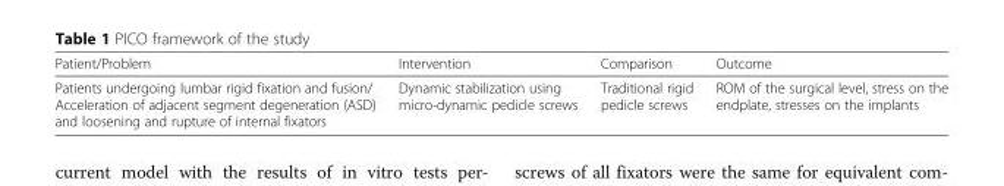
<table><thead><tr><td>Patient/Problem</td><td>Intervention</td><td>Comparison</td><td>Outcome</td></tr></thead><tbody><tr><td>Patients undergoing lumbar rigid fixation and fusion/ Acceleration of adjacent segment degeneration (ASD) and loosening and rupture of internal fixators</td><td>Dynamic stabilization using micro-dynamic pedicle screws</td><td>Traditional rigid pedicle screws</td><td>ROM of the surgical level, stress on the endplate, stresses on the implants</td></tr></tbody></table>